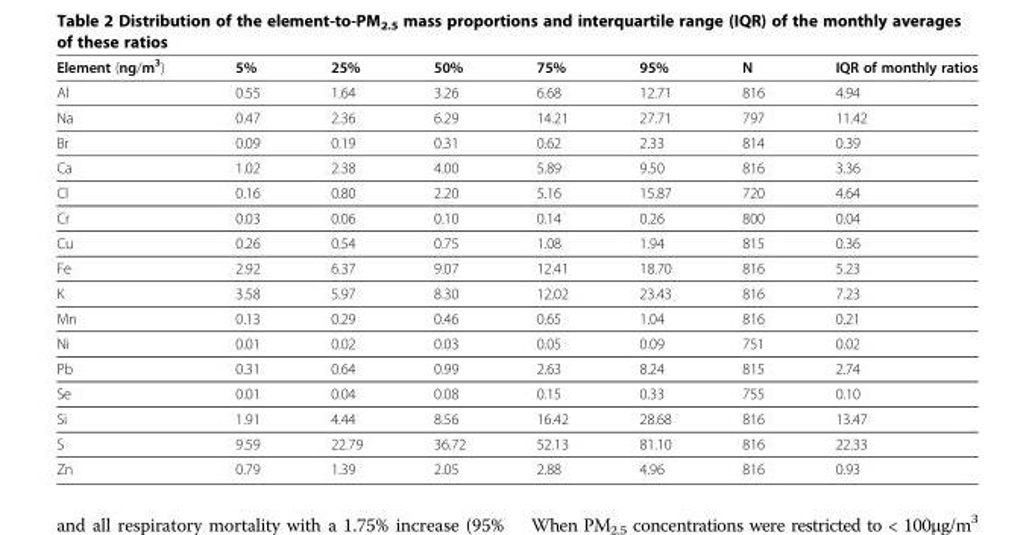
<table><thead><tr><td>Element (ng/m<sup>3</sup>)</td><td>5%</td><td>25%</td><td>50%</td><td>75%</td><td>95%</td><td>N</td><td>IQR of monthly ratios</td></tr></thead><tbody><tr><td>Al</td><td>0.55</td><td>1.64</td><td>3.26</td><td>6.68</td><td>12.71</td><td>816</td><td>4.94</td></tr><tr><td>Na</td><td>0.47</td><td>2.36</td><td>6.29</td><td>14.21</td><td>27.71</td><td>797</td><td>11.42</td></tr><tr><td>Br</td><td>0.09</td><td>0.19</td><td>0.31</td><td>0.62</td><td>2.33</td><td>814</td><td>0.39</td></tr><tr><td>Ca</td><td>1.02</td><td>2.38</td><td>4.00</td><td>5.89</td><td>9.50</td><td>816</td><td>3.36</td></tr><tr><td>Cl</td><td>0.16</td><td>0.80</td><td>2.20</td><td>5.16</td><td>15.87</td><td>720</td><td>4.64</td></tr><tr><td>Cr</td><td>0.03</td><td>0.06</td><td>0.10</td><td>0.14</td><td>0.26</td><td>800</td><td>0.04</td></tr><tr><td>Cu</td><td>0.26</td><td>0.54</td><td>0.75</td><td>1.08</td><td>1.94</td><td>815</td><td>0.36</td></tr><tr><td>Fe</td><td>2.92</td><td>6.37</td><td>9.07</td><td>12.41</td><td>18.70</td><td>816</td><td>5.23</td></tr><tr><td>K</td><td>3.58</td><td>5.97</td><td>8.30</td><td>12.02</td><td>23.43</td><td>816</td><td>7.23</td></tr><tr><td>Mn</td><td>0.13</td><td>0.29</td><td>0.46</td><td>0.65</td><td>1.04</td><td>816</td><td>0.21</td></tr><tr><td>Ni</td><td>0.01</td><td>0.02</td><td>0.03</td><td>0.05</td><td>0.09</td><td>751</td><td>0.02</td></tr><tr><td>Pb</td><td>0.31</td><td>0.64</td><td>0.99</td><td>2.63</td><td>8.24</td><td>815</td><td>2.74</td></tr><tr><td>Se</td><td>0.01</td><td>0.04</td><td>0.08</td><td>0.15</td><td>0.33</td><td>755</td><td>0.10</td></tr><tr><td>Si</td><td>1.91</td><td>4.44</td><td>8.56</td><td>16.42</td><td>28.68</td><td>816</td><td>13.47</td></tr><tr><td>S</td><td>9.59</td><td>22.79</td><td>36.72</td><td>52.13</td><td>81.10</td><td>816</td><td>22.33</td></tr><tr><td>Zn</td><td>0.79</td><td>1.39</td><td>2.05</td><td>2.88</td><td>4.96</td><td>816</td><td>0.93</td></tr></tbody></table>